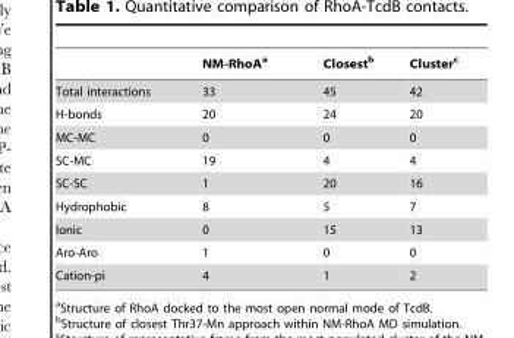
<table><thead><tr><td></td><td>NM-RhoA<sup>a</sup></td><td>Closest<sup>b</sup></td><td>Cluster<sup>c</sup></td></tr></thead><tbody><tr><td>Total interactions</td><td>33</td><td>45</td><td>42</td></tr><tr><td>H-bonds</td><td>20</td><td>24</td><td>20</td></tr><tr><td>MC-MC</td><td>0</td><td>0</td><td>0</td></tr><tr><td>SC-MC</td><td>19</td><td>4</td><td>4</td></tr><tr><td>SC-SC</td><td>1</td><td>20</td><td>16</td></tr><tr><td>Hydrophobic</td><td>8</td><td>5</td><td>7</td></tr><tr><td>Ionic</td><td>0</td><td>15</td><td>13</td></tr><tr><td>Aro-Aro</td><td>1</td><td>0</td><td>0</td></tr><tr><td>Cation-pi</td><td>4</td><td>1</td><td>2</td></tr></tbody></table>